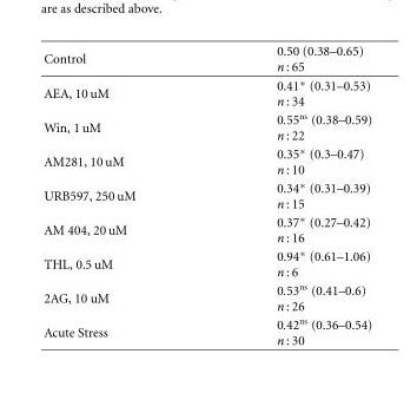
<table><thead><tr><td>Control</td><td>0.50 (0.38–0.65) n : 65</td></tr></thead><tbody><tr><td>AEA, 10 uM</td><td>0.41∗ (0.31–0.53) n : 34</td></tr><tr><td>Win, 1 uM</td><td>0.55<sup>ns</sup> (0.38–0.59) n : 22</td></tr><tr><td>AM281, 10 uM</td><td>0.35∗ (0.3–0.47) n : 10</td></tr><tr><td>URB597, 250 uM</td><td>0.34∗ (0.31–0.39) n : 15</td></tr><tr><td>AM 404, 20 uM</td><td>0.37∗ (0.27–0.42) n : 16</td></tr><tr><td>THL, 0.5 uM</td><td>0.94∗ (0.61–1.06) n : 6</td></tr><tr><td>2AG, 10 uM</td><td>0.53<sup>ns</sup> (0.41–0.6) n : 26</td></tr><tr><td>Acute Stress</td><td>0.42<sup>ns</sup> (0.36–0.54) n : 30</td></tr></tbody></table>